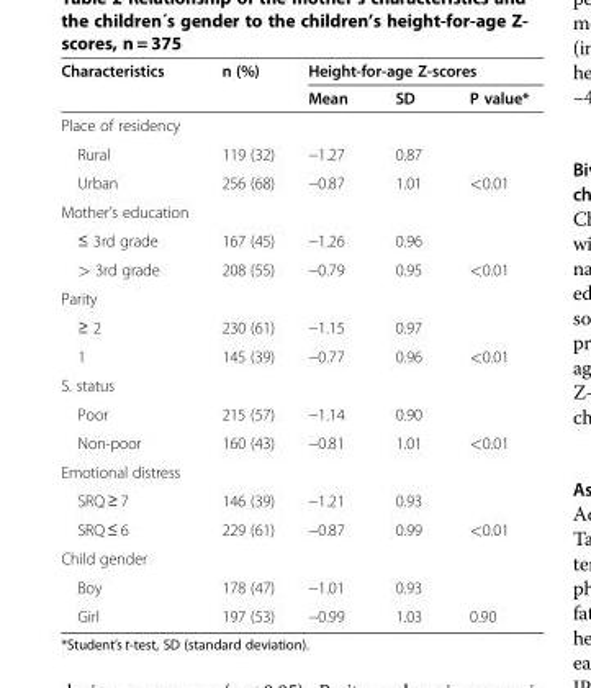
<table><thead><tr><td rowspan="2">Characteristics</td><td rowspan="2">n (%)</td><td colspan="3">Height-for-age Z-scores</td></tr><tr><td>Mean</td><td>SD</td><td>P value*</td></tr></thead><tbody><tr><td colspan="5">Place of residency</td></tr><tr><td>Rural</td><td>119 (32)</td><td>−1.27</td><td>0.87</td><td></td></tr><tr><td>Urban</td><td>256 (68)</td><td>−0.87</td><td>1.01</td><td>&lt;0.01</td></tr><tr><td colspan="5">Mother’s education</td></tr><tr><td>≤ 3rd grade</td><td>167 (45)</td><td>−1.26</td><td>0.96</td><td></td></tr><tr><td>&gt; 3rd grade</td><td>208 (55)</td><td>−0.79</td><td>0.95</td><td>&lt;0.01</td></tr><tr><td colspan="5">Parity</td></tr><tr><td>≥ 2</td><td>230 (61)</td><td>−1.15</td><td>0.97</td><td></td></tr><tr><td>1</td><td>145 (39)</td><td>−0.77</td><td>0.96</td><td>&lt;0.01</td></tr><tr><td colspan="5">S. status</td></tr><tr><td>Poor</td><td>215 (57)</td><td>−1.14</td><td>0.90</td><td></td></tr><tr><td>Non-poor</td><td>160 (43)</td><td>−0.81</td><td>1.01</td><td>&lt;0.01</td></tr><tr><td colspan="5">Emotional distress</td></tr><tr><td>SRQ ≥ 7</td><td>146 (39)</td><td>−1.21</td><td>0.93</td><td></td></tr><tr><td>SRQ ≤ 6</td><td>229 (61)</td><td>−0.87</td><td>0.99</td><td>&lt;0.01</td></tr><tr><td colspan="5">Child gender</td></tr><tr><td>Boy</td><td>178 (47)</td><td>−1.01</td><td>0.93</td><td></td></tr><tr><td>Girl</td><td>197 (53)</td><td>−0.99</td><td>1.03</td><td>0.90</td></tr></tbody></table>